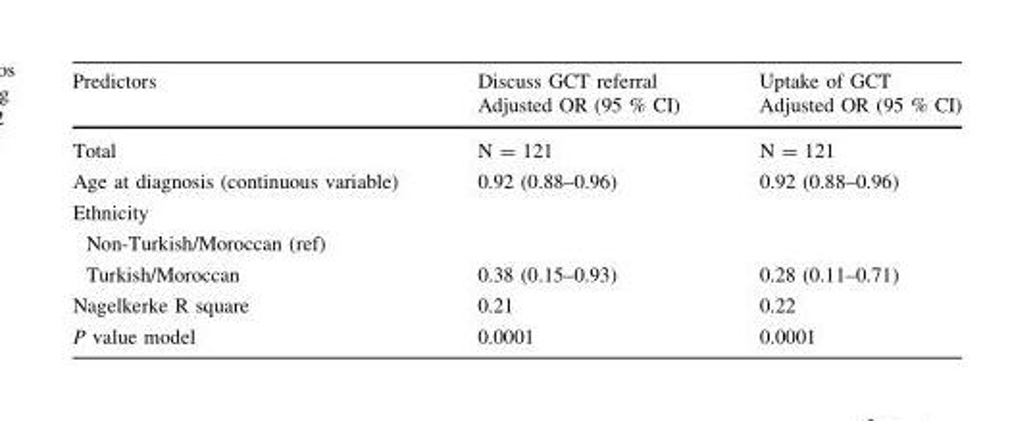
<table><thead><tr><td rowspan="2">Predictors</td><td rowspan="2">Discuss GCT referral Adjusted OR (95 % CI)</td><td rowspan="2">Uptake of GCT Adjusted OR (95 % CI)</td></tr><tr></tr></thead><tbody><tr><td>Total</td><td>N = 121</td><td>N = 121</td></tr><tr><td>Age at diagnosis (continuous variable)</td><td>0.92 (0.88–0.96)</td><td>0.92 (0.88–0.96)</td></tr><tr><td colspan="3">Ethnicity</td></tr><tr><td colspan="3">Non-Turkish/Moroccan (ref)</td></tr><tr><td>Turkish/Moroccan</td><td>0.38 (0.15–0.93)</td><td>0.28 (0.11–0.71)</td></tr><tr><td>Nagelkerke R square</td><td>0.21</td><td>0.22</td></tr><tr><td>P value model</td><td>0.0001</td><td>0.0001</td></tr></tbody></table>